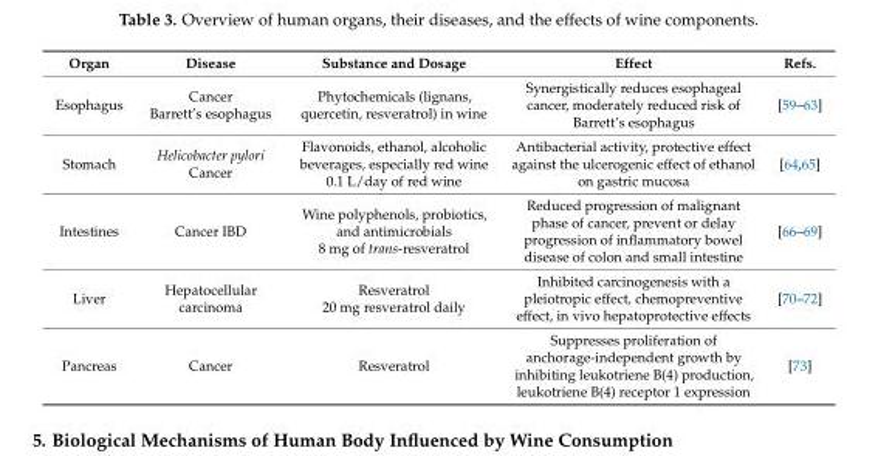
<table><thead><tr><td>Organ</td><td>Disease</td><td>Substance and Dosage</td><td>Effect</td><td>Refs.</td></tr></thead><tbody><tr><td>Esophagus</td><td>Cancer Barrett’s esophagus</td><td>Phytochemicals (lignans, quercetin, resveratrol) in wine</td><td>Synergistically reduces esophageal cancer, moderately reduced risk of Barrett’s esophagus</td><td>[59–63]</td></tr><tr><td>Stomach</td><td>Helicobacter pylori Cancer</td><td>Flavonoids, ethanol, alcoholic beverages, especially red wine 0.1 L/day of red wine</td><td>Antibacterial activity, protective effect against the ulcerogenic effect of ethanol on gastric mucosa</td><td>[64,65]</td></tr><tr><td>Intestines</td><td>Cancer IBD</td><td>Wine polyphenols, probiotics, and antimicrobials 8 mg of trans-resveratrol</td><td>Reduced progression of malignant phase of cancer, prevent or delay progression of inflammatory bowel disease of colon and small intestine</td><td>[66–69]</td></tr><tr><td>Liver</td><td>Hepatocellular carcinoma</td><td>Resveratrol 20 mg resveratrol daily</td><td>Inhibited carcinogenesis with a pleiotropic effect, chemopreventive effect, in vivo hepatoprotective effects</td><td>[70–72]</td></tr><tr><td>Pancreas</td><td>Cancer</td><td>Resveratrol</td><td>Suppresses proliferation of anchorage-independent growth by inhibiting leukotriene B(4) production, leukotriene B(4) receptor 1 expression</td><td>[73]</td></tr></tbody></table>